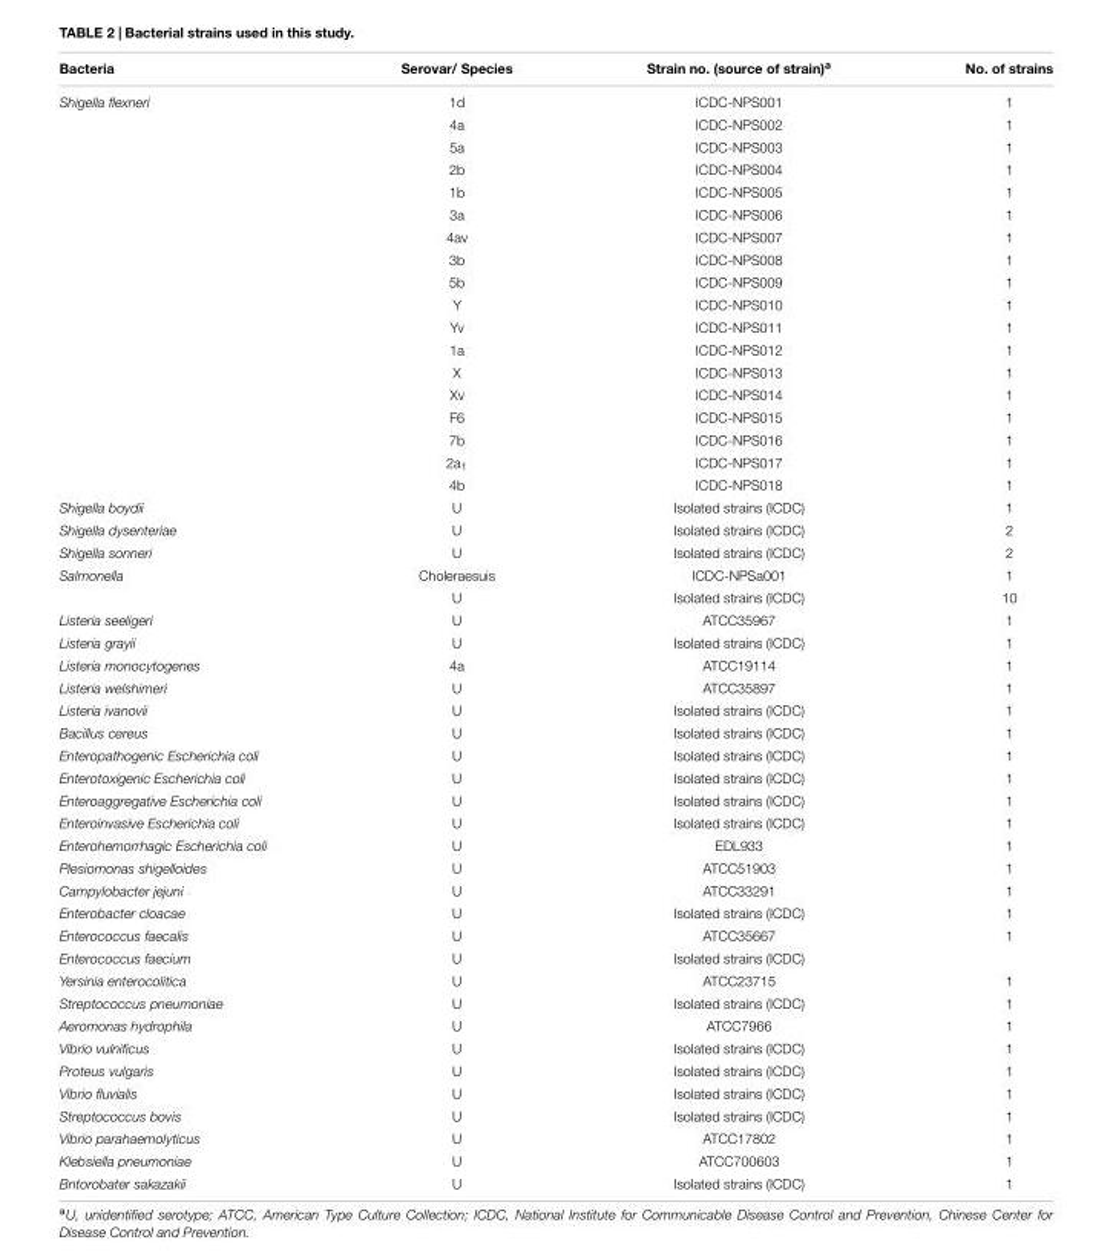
<table><thead><tr><td>Bacteria</td><td>Serovar/ Species</td><td>Strain no. (source of strain)<sup>a</sup></td><td>No. of strains</td></tr></thead><tbody><tr><td rowspan="18">Shigella flexneri</td><td>1d</td><td>ICDC-NPS001</td><td>1</td></tr><tr><td>4a</td><td>ICDC-NPS002</td><td>1</td></tr><tr><td>5a</td><td>ICDC-NPS003</td><td>1</td></tr><tr><td>2b</td><td>ICDC-NPS004</td><td>1</td></tr><tr><td>1b</td><td>ICDC-NPS005</td><td>1</td></tr><tr><td>3a</td><td>ICDC-NPS006</td><td>1</td></tr><tr><td>4av</td><td>ICDC-NPS007</td><td>1</td></tr><tr><td>3b</td><td>ICDC-NPS008</td><td>1</td></tr><tr><td>5b</td><td>ICDC-NPS009</td><td>1</td></tr><tr><td>Y</td><td>ICDC-NPS010</td><td>1</td></tr><tr><td>Yv</td><td>ICDC-NPS011</td><td>1</td></tr><tr><td>1a</td><td>ICDC-NPS012</td><td>1</td></tr><tr><td>X</td><td>ICDC-NPS013</td><td>1</td></tr><tr><td>Xv</td><td>ICDC-NPS014</td><td>1</td></tr><tr><td>F6</td><td>ICDC-NPS015</td><td>1</td></tr><tr><td>7b</td><td>ICDC-NPS016</td><td>1</td></tr><tr><td>2a<sub>1</sub></td><td>ICDC-NPS017</td><td>1</td></tr><tr><td>4b</td><td>ICDC-NPS018</td><td>1</td></tr><tr><td>Shigella boydii</td><td>U</td><td>Isolated strains (ICDC)</td><td>1</td></tr><tr><td>Shigella dysenteriae</td><td>U</td><td>Isolated strains (ICDC)</td><td>2</td></tr><tr><td>Shigella sonneri</td><td>U</td><td>Isolated strains (ICDC)</td><td>2</td></tr><tr><td rowspan="2">Salmonella</td><td>Choleraesuis</td><td>ICDC-NPSa001</td><td>1</td></tr><tr><td>U</td><td>Isolated strains (ICDC)</td><td>10</td></tr><tr><td>Listeria seeligeri</td><td>U</td><td>ATCC35967</td><td>1</td></tr><tr><td>Listeria grayii</td><td>U</td><td>Isolated strains (ICDC)</td><td>1</td></tr><tr><td>Listeria monocytogenes</td><td>4a</td><td>ATCC19114</td><td>1</td></tr><tr><td>Listeria welshimeri</td><td>U</td><td>ATCC35897</td><td>1</td></tr><tr><td>Listeria ivanovii</td><td>U</td><td>Isolated strains (ICDC)</td><td>1</td></tr><tr><td>Bacillus cereus</td><td>U</td><td>Isolated strains (ICDC)</td><td>1</td></tr><tr><td>Enteropathogenic Escherichia coli</td><td>U</td><td>Isolated strains (ICDC)</td><td>1</td></tr><tr><td>Enterotoxigenic Escherichia coli</td><td>U</td><td>Isolated strains (ICDC)</td><td>1</td></tr><tr><td>Enteroaggregative Escherichia coli</td><td>U</td><td>Isolated strains (ICDC)</td><td>1</td></tr><tr><td>Enteroinvasive Escherichia coli</td><td>U</td><td>Isolated strains (ICDC)</td><td>1</td></tr><tr><td>Enterohemorrhagic Escherichia coli</td><td>U</td><td>EDL933</td><td>1</td></tr><tr><td>Plesiomonas shigelloides</td><td>U</td><td>ATCC51903</td><td>1</td></tr><tr><td>Campylobacter jejuni</td><td>U</td><td>ATCC33291</td><td>1</td></tr><tr><td>Enterobacter cloacae</td><td>U</td><td>Isolated strains (ICDC)</td><td>1</td></tr><tr><td>Enterococcus faecalis</td><td>U</td><td>ATCC35667</td><td>1</td></tr><tr><td>Enterococcus faecium</td><td>U</td><td>Isolated strains (ICDC)</td><td></td></tr><tr><td>Yersinia enterocolitica</td><td>U</td><td>ATCC23715</td><td>1</td></tr><tr><td>Streptococcus pneumoniae</td><td>U</td><td>Isolated strains (ICDC)</td><td>1</td></tr><tr><td>Aeromonas hydrophila</td><td>U</td><td>ATCC7966</td><td>1</td></tr><tr><td>Vibrio vulnificus</td><td>U</td><td>Isolated strains (ICDC)</td><td>1</td></tr><tr><td>Proteus vulgaris</td><td>U</td><td>Isolated strains (ICDC)</td><td>1</td></tr><tr><td>Vibrio fluvialis</td><td>U</td><td>Isolated strains (ICDC)</td><td>1</td></tr><tr><td>Streptococcus bovis</td><td>U</td><td>Isolated strains (ICDC)</td><td>1</td></tr><tr><td>Vibrio parahaemolyticus</td><td>U</td><td>ATCC17802</td><td>1</td></tr><tr><td>Klebsiella pneumoniae</td><td>U</td><td>ATCC700603</td><td>1</td></tr><tr><td>Bntorobater sakazakii</td><td>U</td><td>Isolated strains (ICDC)</td><td>1</td></tr></tbody></table>